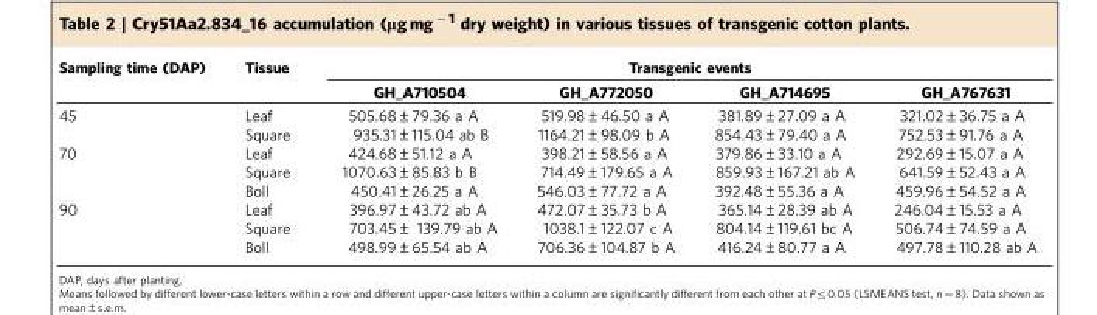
<table><thead><tr><td rowspan="2">Sampling time (DAP)</td><td rowspan="2">Tissue</td><td colspan="4">Transgenic events</td></tr><tr><td>GH_A710504</td><td>GH_A772050</td><td>GH_A714695</td><td>GH_A767631</td></tr></thead><tbody><tr><td rowspan="2">45</td><td>Leaf</td><td>505.68±79.36 a A</td><td>519.98±46.50 a A</td><td>381.89±27.09 a A</td><td>321.02±36.75 a A</td></tr><tr><td>Square</td><td>935.31±115.04 ab B</td><td>1164.21±98.09 b A</td><td>854.43±79.40 a A</td><td>752.53±91.76 a A</td></tr><tr><td rowspan="3">70</td><td>Leaf</td><td>424.68±51.12 a A</td><td>398.21±58.56 a A</td><td>379.86±33.10 a A</td><td>292.69±15.07 a A</td></tr><tr><td>Square</td><td>1070.63±85.83 b B</td><td>714.49±179.65 a A</td><td>859.93±167.21 ab A</td><td>641.59±52.43 a A</td></tr><tr><td>Boll</td><td>450.41±26.25 a A</td><td>546.03±77.72 a A</td><td>392.48±55.36 a A</td><td>459.96±54.52 a A</td></tr><tr><td rowspan="3">90</td><td>Leaf</td><td>396.97±43.72 ab A</td><td>472.07±35.73 b A</td><td>365.14±28.39 ab A</td><td>246.04±15.53 a A</td></tr><tr><td>Square</td><td>703.45± 139.79 ab A</td><td>1038.1±122.07 c A</td><td>804.14±119.61 bc A</td><td>506.74±74.59 a A</td></tr><tr><td>Boll</td><td>498.99±65.54 ab A</td><td>706.36±104.87 b A</td><td>416.24±80.77 a A</td><td>497.78±110.28 ab A</td></tr></tbody></table>